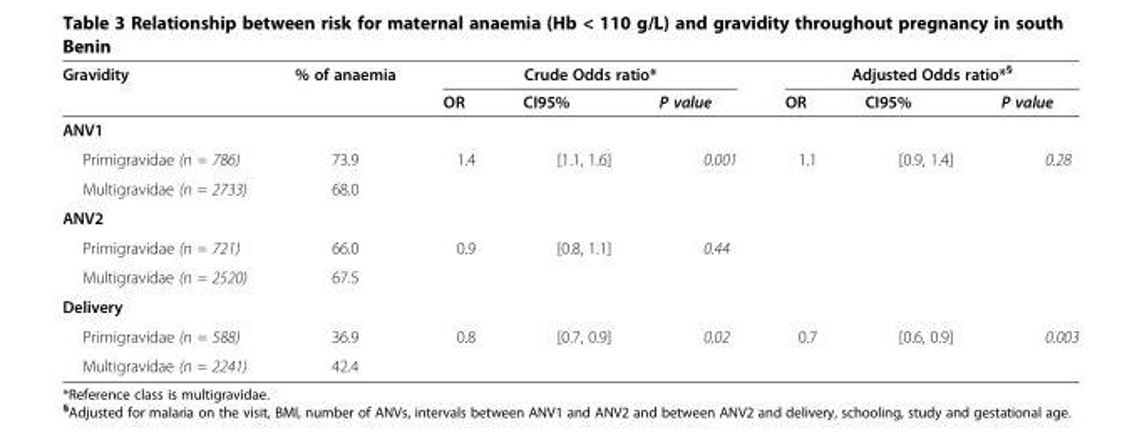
<table><thead><tr><td rowspan="2">Gravidity</td><td rowspan="2">% of anaemia</td><td colspan="3">Crude Odds ratio*</td><td colspan="3">Adjusted Odds ratio*<sup>§</sup></td></tr><tr><td>OR</td><td>CI95%</td><td>P value</td><td>OR</td><td>CI95%</td><td>P value</td></tr></thead><tbody><tr><td colspan="8">ANV1</td></tr><tr><td>Primigravidae (n = 786)</td><td>73.9</td><td>1.4</td><td>[1.1, 1.6]</td><td>0.001</td><td>1.1</td><td>[0.9, 1.4]</td><td>0.28</td></tr><tr><td>Multigravidae (n = 2733)</td><td>68.0</td><td></td><td></td><td></td><td></td><td></td><td></td></tr><tr><td colspan="8">ANV2</td></tr><tr><td>Primigravidae (n = 721)</td><td>66.0</td><td>0.9</td><td>[0.8, 1.1]</td><td>0.44</td><td></td><td></td><td></td></tr><tr><td>Multigravidae (n = 2520)</td><td>67.5</td><td></td><td></td><td></td><td></td><td></td><td></td></tr><tr><td colspan="8">Delivery</td></tr><tr><td>Primigravidae (n = 588)</td><td>36.9</td><td>0.8</td><td>[0.7, 0.9]</td><td>0.02</td><td>0.7</td><td>[0.6, 0.9]</td><td>0.003</td></tr><tr><td>Multigravidae (n = 2241)</td><td>42.4</td><td></td><td></td><td></td><td></td><td></td><td></td></tr></tbody></table>